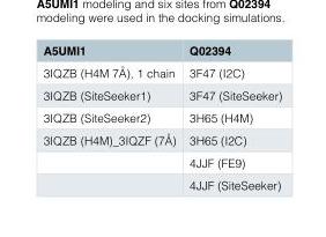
<table><thead><tr><td>A5UMI1</td><td>Q02394</td></tr></thead><tbody><tr><td>3IQZB (H4M 7Å), 1 chain</td><td>3F47 (I2C)</td></tr><tr><td>3IQZB (SiteSeeker1)</td><td>3F47 (SiteSeeker)</td></tr><tr><td>3IQZB (SiteSeeker2)</td><td>3H65 (H4M)</td></tr><tr><td rowspan="3">3IQZB (H4M)_3IQZF (7Å)</td><td>3H65 (I2C)</td></tr><tr><td>4JJF (FE9)</td></tr><tr><td>4JJF (SiteSeeker)</td></tr></tbody></table>